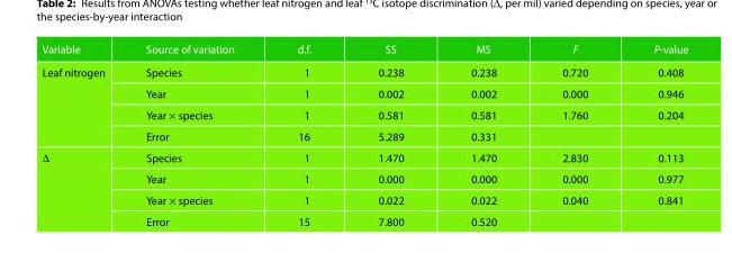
<table><thead><tr><td>Variable</td><td>Source of variation</td><td>d.f.</td><td>SS</td><td>MS</td><td>F</td><td>P-value</td></tr></thead><tbody><tr><td rowspan="4">Leaf nitrogen</td><td>Species</td><td>1</td><td>0.238</td><td>0.238</td><td>0.720</td><td>0.408</td></tr><tr><td>Year</td><td>1</td><td>0.002</td><td>0.002</td><td>0.000</td><td>0.946</td></tr><tr><td>Year × species</td><td>1</td><td>0.581</td><td>0.581</td><td>1.760</td><td>0.204</td></tr><tr><td>Error</td><td>16</td><td>5.289</td><td>0.331</td><td></td><td></td></tr><tr><td rowspan="4">Δ</td><td>Species</td><td>1</td><td>1.470</td><td>1.470</td><td>2.830</td><td>0.113</td></tr><tr><td>Year</td><td>1</td><td>0.000</td><td>0.000</td><td>0.000</td><td>0.977</td></tr><tr><td>Year × species</td><td>1</td><td>0.022</td><td>0.022</td><td>0.040</td><td>0.841</td></tr><tr><td>Error</td><td>15</td><td>7.800</td><td>0.520</td><td></td><td></td></tr></tbody></table>